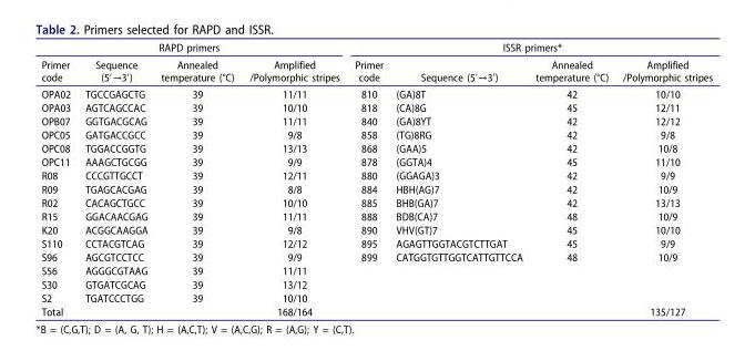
<table><thead><tr><td colspan="4">RAPD primers</td><td colspan="4">ISSR primers*</td></tr><tr><td>Primer code</td><td>Sequence (5′→3′)</td><td>Annealed temperature (°C)</td><td>Amplified /Polymorphic stripes</td><td>Primer code</td><td>Sequence (5′→3′)</td><td>Annealed temperature (°C)</td><td>Amplified /Polymorphic stripes</td></tr></thead><tbody><tr><td>OPA02</td><td>TGCCGAGCTG</td><td>39</td><td>11/11</td><td>810</td><td>(GA)8T</td><td>42</td><td>10/10</td></tr><tr><td>OPA03</td><td>AGTCAGCCAC</td><td>39</td><td>10/10</td><td>818</td><td>(CA)8G</td><td>45</td><td>12/11</td></tr><tr><td>OPB07</td><td>GGTGACGCAG</td><td>39</td><td>11/11</td><td>840</td><td>(GA)8YT</td><td>42</td><td>12/12</td></tr><tr><td>OPC05</td><td>GATGACCGCC</td><td>39</td><td>9/8</td><td>858</td><td>(TG)8RG</td><td>42</td><td>9/8</td></tr><tr><td>OPC08</td><td>TGGACCGGTG</td><td>39</td><td>13/13</td><td>868</td><td>(GAA)5</td><td>42</td><td>10/8</td></tr><tr><td>OPC11</td><td>AAAGCTGCGG</td><td>39</td><td>9/9</td><td>878</td><td>(GGTA)4</td><td>45</td><td>11/10</td></tr><tr><td>R08</td><td>CCCGTTGCCT</td><td>39</td><td>12/11</td><td>880</td><td>(GGAGA)3</td><td>42</td><td>9/9</td></tr><tr><td>R09</td><td>TGAGCACGAG</td><td>39</td><td>8/8</td><td>884</td><td>HBH(AG)7</td><td>42</td><td>10/9</td></tr><tr><td>R02</td><td>CACAGCTGCC</td><td>39</td><td>10/10</td><td>885</td><td>BHB(GA)7</td><td>42</td><td>13/13</td></tr><tr><td>R15</td><td>GGACAACGAG</td><td>39</td><td>11/11</td><td>888</td><td>BDB(CA)7</td><td>48</td><td>10/9</td></tr><tr><td>K20</td><td>ACGGCAAGGA</td><td>39</td><td>9/8</td><td>890</td><td>VHV(GT)7</td><td>45</td><td>10/10</td></tr><tr><td>S110</td><td>CCTACGTCAG</td><td>39</td><td>12/12</td><td>895</td><td>AGAGTTGGTACGTCTTGAT</td><td>45</td><td>9/9</td></tr><tr><td>S96</td><td>AGCGTCCTCC</td><td>39</td><td>9/9</td><td>899</td><td>CATGGTGTTGGTCATTGTTCCA</td><td>48</td><td>10/9</td></tr><tr><td>S56</td><td>AGGGCGTAAG</td><td>39</td><td>11/11</td><td></td><td></td><td></td><td></td></tr><tr><td>S30</td><td>GTGATCGCAG</td><td>39</td><td>13/12</td><td></td><td></td><td></td><td></td></tr><tr><td>S2</td><td>TGATCCCTGG</td><td>39</td><td>10/10</td><td></td><td></td><td></td><td></td></tr><tr><td>Total</td><td></td><td></td><td>168/164</td><td></td><td></td><td></td><td>135/127</td></tr></tbody></table>